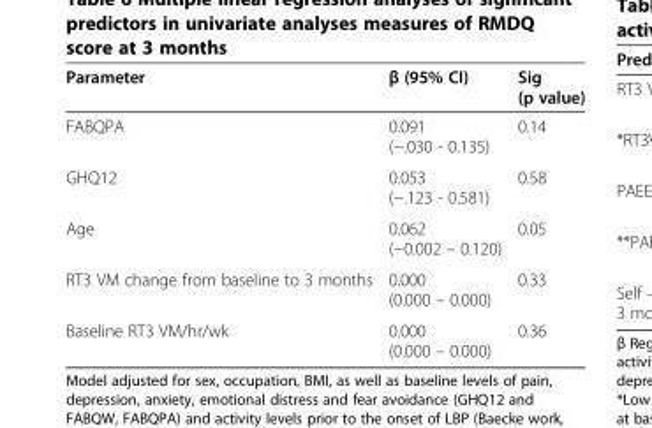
<table><thead><tr><td>Parameter</td><td>β (95% CI)</td><td>Sig (p value)</td></tr></thead><tbody><tr><td>FABQPA</td><td>0.091 (−.030 - 0.135)</td><td>0.14</td></tr><tr><td>GHQ12</td><td>0.053 (−.123 - 0.581)</td><td>0.58</td></tr><tr><td>Age</td><td>0.062 (−0.002 – 0.120)</td><td>0.05</td></tr><tr><td>RT3 VM change from baseline to 3 months</td><td>0.000 (0.000 – 0.000)</td><td>0.33</td></tr><tr><td>Baseline RT3 VM/hr/wk</td><td>0.000 (0.000 – 0.000)</td><td>0.36</td></tr></tbody></table>